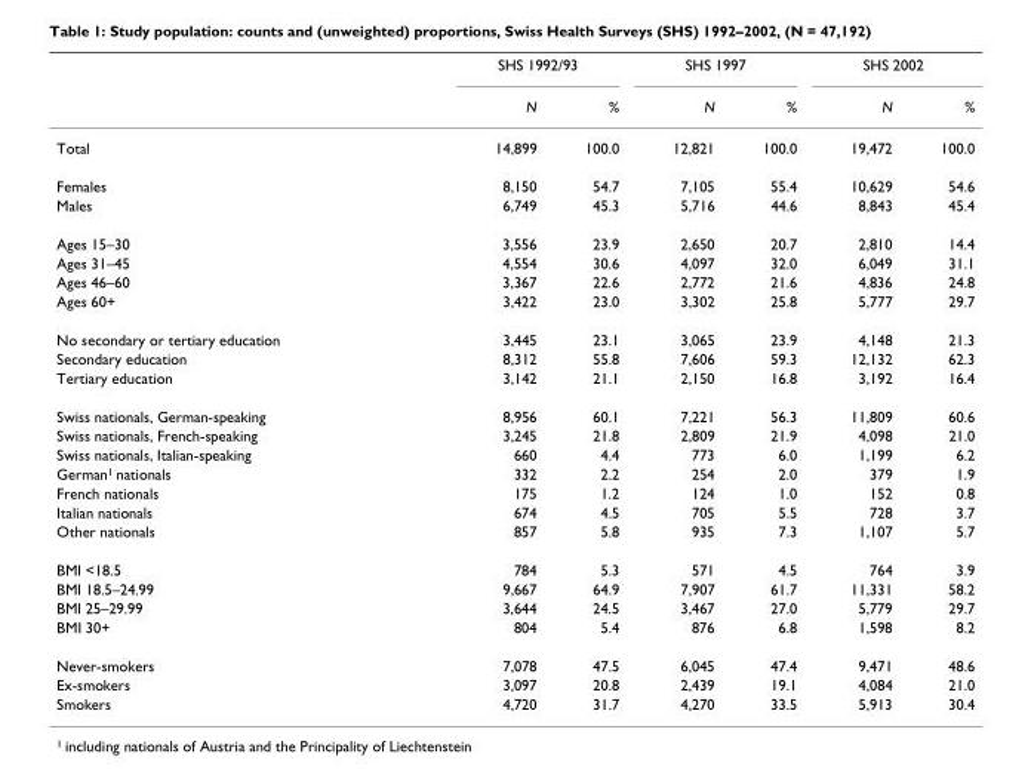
<table><thead><tr><td rowspan="2"></td><td colspan="2">SHS 1992/93</td><td colspan="2">SHS 1997</td><td colspan="2">SHS 2002</td></tr><tr><td>N</td><td>%</td><td>N</td><td>%</td><td>N</td><td>%</td></tr></thead><tbody><tr><td>Total</td><td>14,899</td><td>100.0</td><td>12,821</td><td>100.0</td><td>19,472</td><td>100.0</td></tr><tr><td>Females</td><td>8,150</td><td>54.7</td><td>7,105</td><td>55.4</td><td>10,629</td><td>54.6</td></tr><tr><td>Males</td><td>6,749</td><td>45.3</td><td>5,716</td><td>44.6</td><td>8,843</td><td>45.4</td></tr><tr><td>Ages 15–30</td><td>3,556</td><td>23.9</td><td>2,650</td><td>20.7</td><td>2,810</td><td>14.4</td></tr><tr><td>Ages 31–45</td><td>4,554</td><td>30.6</td><td>4,097</td><td>32.0</td><td>6,049</td><td>31.1</td></tr><tr><td>Ages 46–60</td><td>3,367</td><td>22.6</td><td>2,772</td><td>21.6</td><td>4,836</td><td>24.8</td></tr><tr><td>Ages 60+</td><td>3,422</td><td>23.0</td><td>3,302</td><td>25.8</td><td>5,777</td><td>29.7</td></tr><tr><td>No secondary or tertiary education</td><td>3,445</td><td>23.1</td><td>3,065</td><td>23.9</td><td>4,148</td><td>21.3</td></tr><tr><td>Secondary education</td><td>8,312</td><td>55.8</td><td>7,606</td><td>59.3</td><td>12,132</td><td>62.3</td></tr><tr><td>Tertiary education</td><td>3,142</td><td>21.1</td><td>2,150</td><td>16.8</td><td>3,192</td><td>16.4</td></tr><tr><td>Swiss nationals, German-speaking</td><td>8,956</td><td>60.1</td><td>7,221</td><td>56.3</td><td>11,809</td><td>60.6</td></tr><tr><td>Swiss nationals, French-speaking</td><td>3,245</td><td>21.8</td><td>2,809</td><td>21.9</td><td>4,098</td><td>21.0</td></tr><tr><td>Swiss nationals, Italian-speaking</td><td>660</td><td>4.4</td><td>773</td><td>6.0</td><td>1,199</td><td>6.2</td></tr><tr><td>German<sup>1</sup> nationals</td><td>332</td><td>2.2</td><td>254</td><td>2.0</td><td>379</td><td>1.9</td></tr><tr><td>French nationals</td><td>175</td><td>1.2</td><td>124</td><td>1.0</td><td>152</td><td>0.8</td></tr><tr><td>Italian nationals</td><td>674</td><td>4.5</td><td>705</td><td>5.5</td><td>728</td><td>3.7</td></tr><tr><td>Other nationals</td><td>857</td><td>5.8</td><td>935</td><td>7.3</td><td>1,107</td><td>5.7</td></tr><tr><td>BMI &lt;18.5</td><td>784</td><td>5.3</td><td>571</td><td>4.5</td><td>764</td><td>3.9</td></tr><tr><td>BMI 18.5–24.99</td><td>9,667</td><td>64.9</td><td>7,907</td><td>61.7</td><td>11,331</td><td>58.2</td></tr><tr><td>BMI 25–29.99</td><td>3,644</td><td>24.5</td><td>3,467</td><td>27.0</td><td>5,779</td><td>29.7</td></tr><tr><td>BMI 30+</td><td>804</td><td>5.4</td><td>876</td><td>6.8</td><td>1,598</td><td>8.2</td></tr><tr><td>Never-smokers</td><td>7,078</td><td>47.5</td><td>6,045</td><td>47.4</td><td>9,471</td><td>48.6</td></tr><tr><td>Ex-smokers</td><td>3,097</td><td>20.8</td><td>2,439</td><td>19.1</td><td>4,084</td><td>21.0</td></tr><tr><td>Smokers</td><td>4,720</td><td>31.7</td><td>4,270</td><td>33.5</td><td>5,913</td><td>30.4</td></tr></tbody></table>